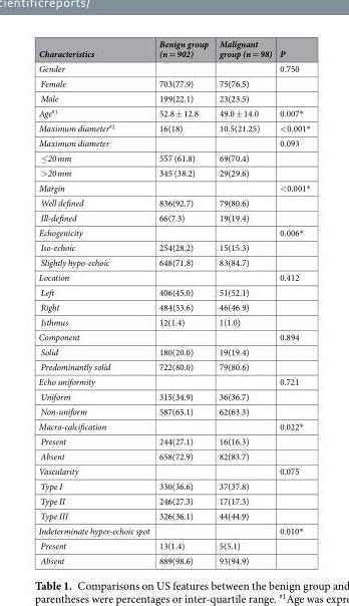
<table><thead><tr><td>Characteristics</td><td>Benign group (n = 902)</td><td>Malignant group (n = 98)</td><td>P</td></tr></thead><tbody><tr><td>Gender</td><td></td><td></td><td>0.750</td></tr><tr><td>Female</td><td>703(77.9)</td><td>75(76.5)</td><td></td></tr><tr><td>Male</td><td>199(22.1)</td><td>23(23.5)</td><td></td></tr><tr><td>Age<sup>#1</sup></td><td>52.8 ± 12.8</td><td>49.0 ± 14.0</td><td>0.007*</td></tr><tr><td>Maximum diameter<sup>#2</sup></td><td>16(18)</td><td>10.5(21.25)</td><td>&lt;0.001*</td></tr><tr><td>Maximum diameter</td><td></td><td></td><td>0.093</td></tr><tr><td>≤20 mm</td><td>557 (61.8)</td><td>69(70.4)</td><td></td></tr><tr><td>&gt;20 mm</td><td>345 (38.2)</td><td>29(29.6)</td><td></td></tr><tr><td>Margin</td><td></td><td></td><td>&lt;0.001*</td></tr><tr><td>Well defined</td><td>836(92.7)</td><td>79(80.6)</td><td></td></tr><tr><td>Ill-defined</td><td>66(7.3)</td><td>19(19.4)</td><td></td></tr><tr><td>Echogenicity</td><td></td><td></td><td>0.006*</td></tr><tr><td>Iso-echoic</td><td>254(28.2)</td><td>15(15.3)</td><td></td></tr><tr><td>Slightly hypo-echoic</td><td>648(71.8)</td><td>83(84.7)</td><td></td></tr><tr><td>Location</td><td></td><td></td><td>0.412</td></tr><tr><td>Left</td><td>406(45.0)</td><td>51(52.1)</td><td></td></tr><tr><td>Right</td><td>484(53.6)</td><td>46(46.9)</td><td></td></tr><tr><td>Isthmus</td><td>12(1.4)</td><td>1(1.0)</td><td></td></tr><tr><td>Component</td><td></td><td></td><td>0.894</td></tr><tr><td>Solid</td><td>180(20.0)</td><td>19(19.4)</td><td></td></tr><tr><td>Predominantly solid</td><td>722(80.0)</td><td>79(80.6)</td><td></td></tr><tr><td>Echo uniformity</td><td></td><td></td><td>0.721</td></tr><tr><td>Uniform</td><td>315(34.9)</td><td>36(36.7)</td><td></td></tr><tr><td>Non-uniform</td><td>587(65.1)</td><td>62(63.3)</td><td></td></tr><tr><td>Macro-calcification</td><td></td><td></td><td>0.022*</td></tr><tr><td>Present</td><td>244(27.1)</td><td>16(16.3)</td><td></td></tr><tr><td>Absent</td><td>658(72.9)</td><td>82(83.7)</td><td></td></tr><tr><td>Vascularity</td><td></td><td></td><td>0.075</td></tr><tr><td>Type I</td><td>330(36.6)</td><td>37(37.8)</td><td></td></tr><tr><td>Type II</td><td>246(27.3)</td><td>17(17.3)</td><td></td></tr><tr><td>Type III</td><td>326(36.1)</td><td>44(44.9)</td><td></td></tr><tr><td>Indeterminate hyper-echoic spot</td><td></td><td></td><td>0.010*</td></tr><tr><td>Present</td><td>13(1.4)</td><td>5(5.1)</td><td></td></tr><tr><td>Absent</td><td>889(98.6)</td><td>93(94.9)</td><td></td></tr></tbody></table>